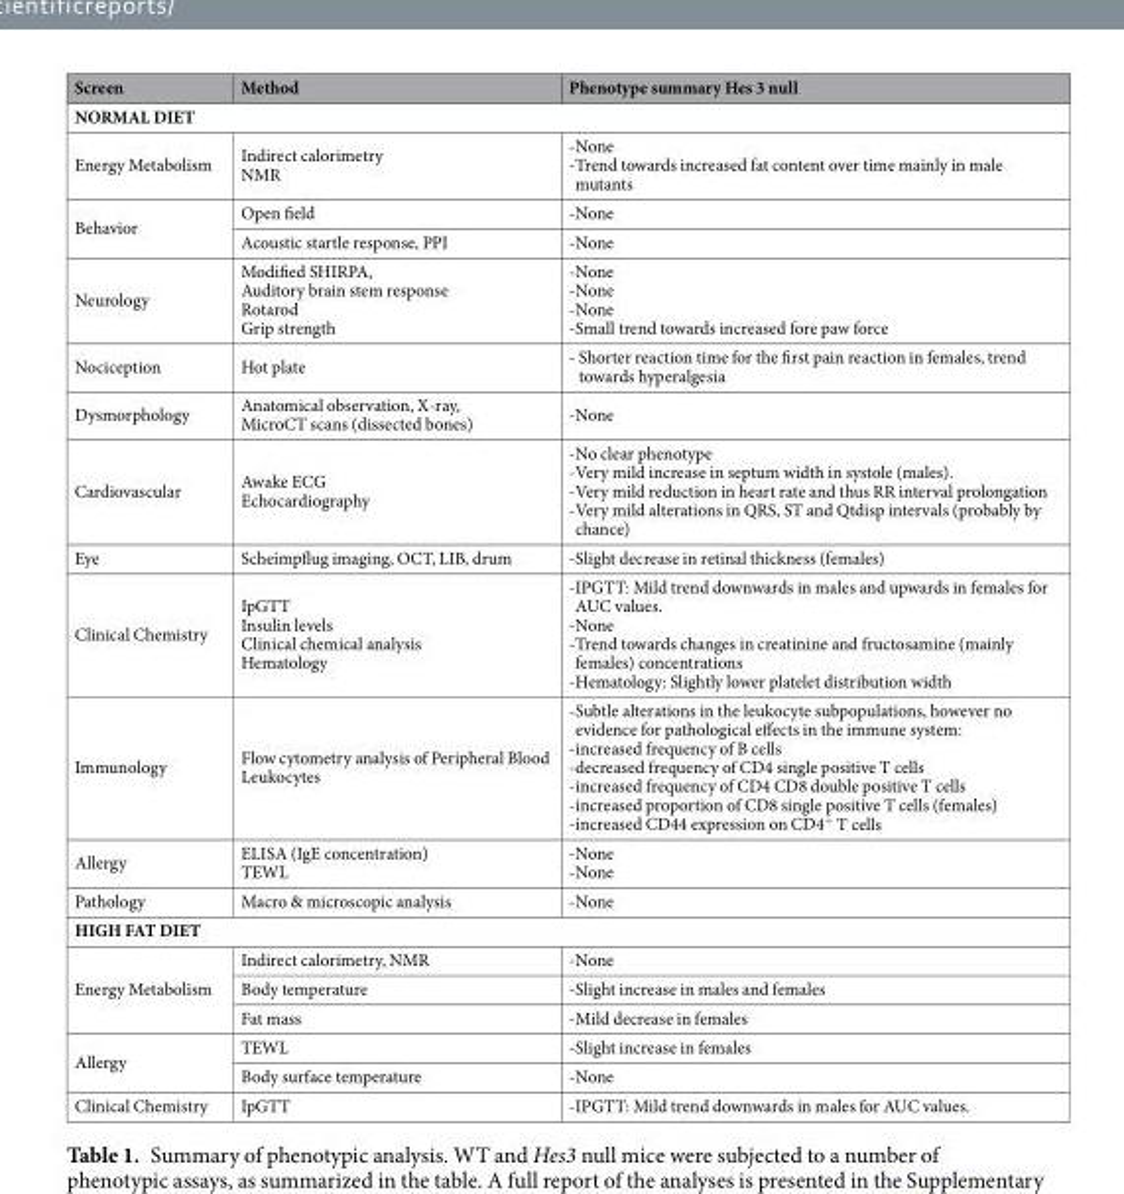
<table><thead><tr><td>Screen</td><td>Method</td><td>Phenotype summary Hes 3 null</td></tr></thead><tbody><tr><td colspan="3">NORMAL DIET</td></tr><tr><td>Energy Metabolism</td><td>Indirect calorimetry NMR</td><td>-None - Trend towards increased fat content over time mainly in male mutants</td></tr><tr><td rowspan="2">Behavior</td><td>Open field</td><td>-None</td></tr><tr><td>Acoustic startle response, PPI</td><td>-None</td></tr><tr><td>Neurology</td><td>Modified SHIRPA, Auditory brain stem response Rotarod Grip strength</td><td>-None -None -None -Small trend towards increased fore paw force</td></tr><tr><td>Nociception</td><td>Hot plate</td><td>- Shorter reaction time for the first pain reaction in females, trend towards hyperalgesia</td></tr><tr><td>Dysmorphology</td><td>Anatomical observation, X-ray, MicroCT scans (dissected bones)</td><td>-None</td></tr><tr><td>Cardiovascular</td><td>Awake ECG Echocardiography</td><td>-No clear phenotype -Very mild increase in septum width in systole (males). -Very mild reduction in heart rate and thus RR interval prolongation - Very mild alterations in QRS, ST and Qtdisp intervals (probably by chance)</td></tr><tr><td>Eye</td><td>Scheimpflug imaging, OCT, LIB, drum</td><td>-Slight decrease in retinal thickness (females)</td></tr><tr><td>Clinical Chemistry</td><td>IpGTT Insulin levels Clinical chemical analysis Hematology</td><td>- IPGTT: Mild trend downwards in males and upwards in females for AUC values. -None - Trend towards changes in creatinine and fructosamine (mainly females) concentrations -Hematology: Slightly lower platelet distribution width</td></tr><tr><td>Immunology</td><td>Flow cytometry analysis of Peripheral Blood Leukocytes</td><td>- Subtle alterations in the leukocyte subpopulations, however no evidence for pathological effects in the immune system: -increased frequency of B cells -decreased frequency of CD4 single positive T cells -increased frequency of CD4 CD8 double positive T cells -increased proportion of CD8 single positive T cells (females) -increased CD44 expression on CD4<sup>+</sup> T cells</td></tr><tr><td>Allergy</td><td>ELISA (IgE concentration) TEWL</td><td>-None -None</td></tr><tr><td>Pathology</td><td>Macro &amp; microscopic analysis</td><td>-None</td></tr><tr><td colspan="3">HIGH FAT DIET</td></tr><tr><td rowspan="3">Energy Metabolism</td><td>Indirect calorimetry, NMR</td><td>-None</td></tr><tr><td>Body temperature</td><td>-Slight increase in males and females</td></tr><tr><td>Fat mass</td><td>-Mild decrease in females</td></tr><tr><td rowspan="2">Allergy</td><td>TEWL</td><td>-Slight increase in females</td></tr><tr><td>Body surface temperature</td><td>-None</td></tr><tr><td>Clinical Chemistry</td><td>IpGTT</td><td>-IPGTT: Mild trend downwards in males for AUC values.</td></tr></tbody></table>